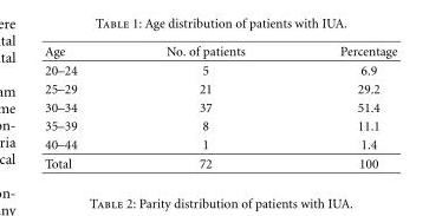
<table><thead><tr><td>Age</td><td>No. of patients</td><td>Percentage</td></tr></thead><tbody><tr><td>20–24</td><td>5</td><td>6.9</td></tr><tr><td>25–29</td><td>21</td><td>29.2</td></tr><tr><td>30–34</td><td>37</td><td>51.4</td></tr><tr><td>35–39</td><td>8</td><td>11.1</td></tr><tr><td>40–44</td><td>1</td><td>1.4</td></tr><tr><td>Total</td><td>72</td><td>100</td></tr></tbody></table>